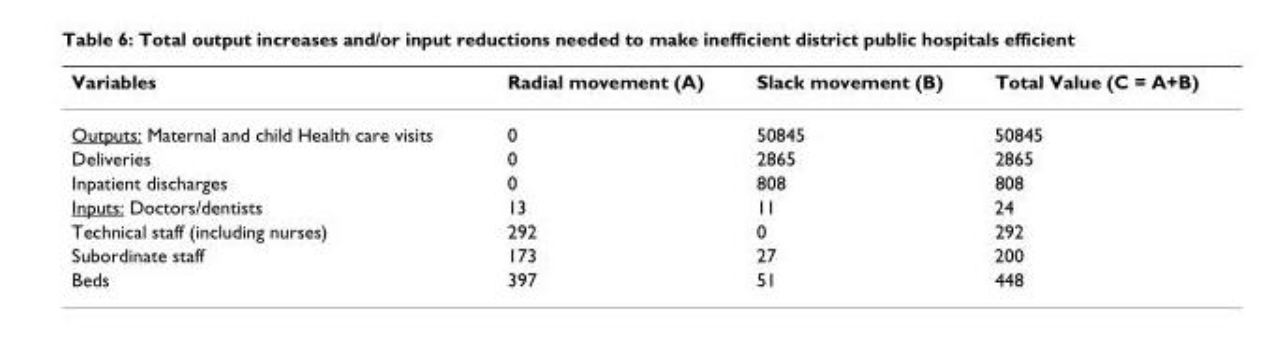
<table><thead><tr><td>Variables</td><td>Radial movement (A)</td><td>Slack movement (B)</td><td>Total Value (C = A+B)</td></tr></thead><tbody><tr><td>Outputs: Maternal and child Health care visits</td><td>0</td><td>50845</td><td>50845</td></tr><tr><td>Deliveries</td><td>0</td><td>2865</td><td>2865</td></tr><tr><td>Inpatient discharges</td><td>0</td><td>808</td><td>808</td></tr><tr><td>Inputs: Doctors/dentists</td><td>13</td><td>11</td><td>24</td></tr><tr><td>Technical staff (including nurses)</td><td>292</td><td>0</td><td>292</td></tr><tr><td>Subordinate staff</td><td>173</td><td>27</td><td>200</td></tr><tr><td>Beds</td><td>397</td><td>51</td><td>448</td></tr></tbody></table>